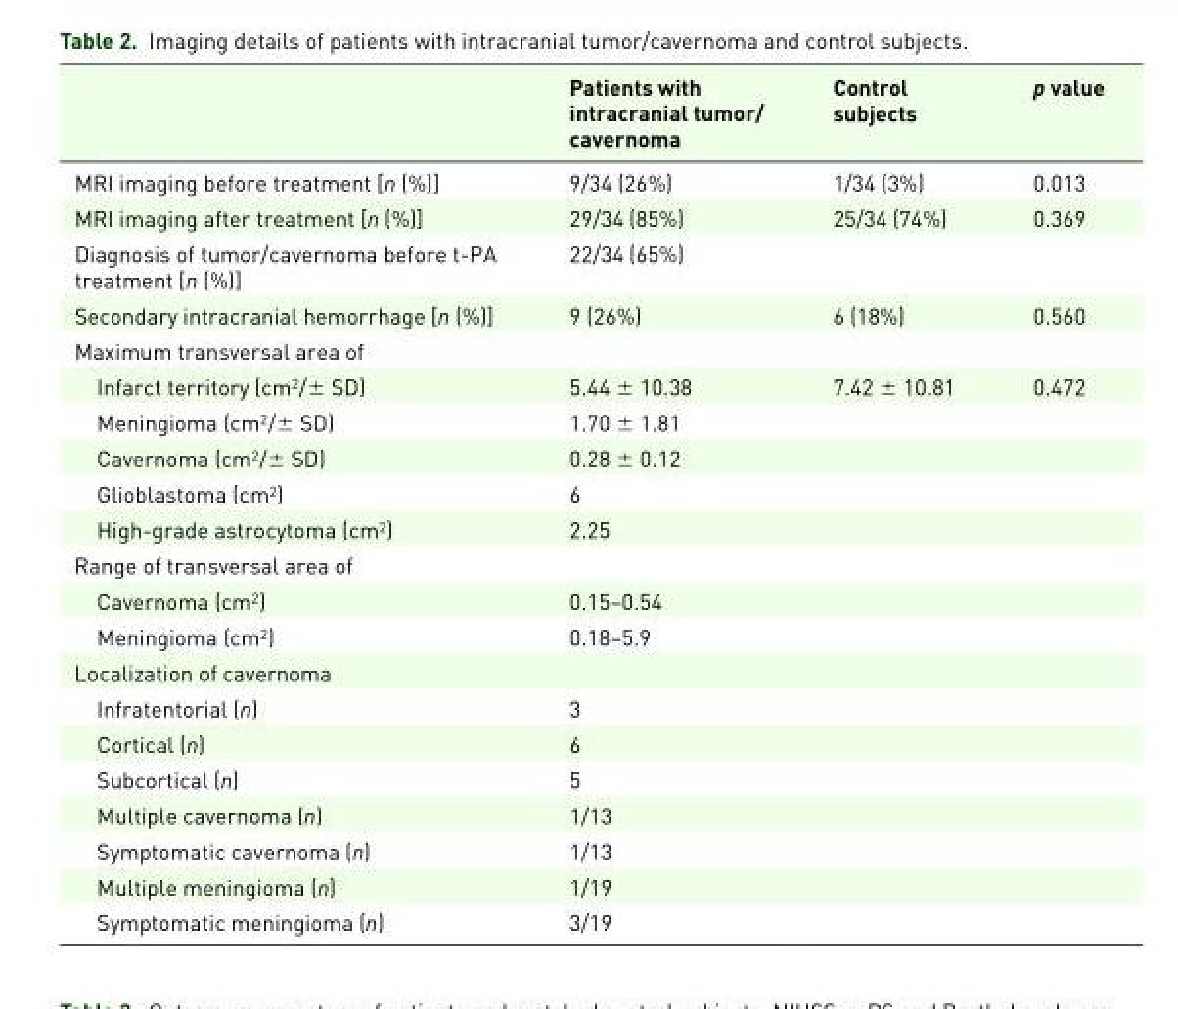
<table><thead><tr><td></td><td>Patients with intracranial tumor/ cavernoma</td><td>Control subjects</td><td>p value</td></tr></thead><tbody><tr><td>MRI imaging before treatment [n (%)]</td><td>9/34 (26%)</td><td>1/34 (3%)</td><td>0.013</td></tr><tr><td>MRI imaging after treatment [n (%)]</td><td>29/34 (85%)</td><td>25/34 (74%)</td><td>0.369</td></tr><tr><td>Diagnosis of tumor/cavernoma before t-PA treatment [n (%)]</td><td>22/34 (65%)</td><td></td><td></td></tr><tr><td>Secondary intracranial hemorrhage [n (%)]</td><td>9 (26%)</td><td>6 (18%)</td><td>0.560</td></tr><tr><td colspan="4">Maximum transversal area of</td></tr><tr><td>Infarct territory (cm<sup>2</sup>/± SD)</td><td>5.44 ± 10.38</td><td>7.42 ± 10.81</td><td>0.472</td></tr><tr><td>Meningioma (cm<sup>2</sup>/± SD)</td><td>1.70 ± 1.81</td><td></td><td></td></tr><tr><td>Cavernoma (cm<sup>2</sup>/± SD)</td><td>0.28 ± 0.12</td><td></td><td></td></tr><tr><td>Glioblastoma (cm<sup>2</sup>)</td><td>6</td><td></td><td></td></tr><tr><td>High-grade astrocytoma (cm<sup>2</sup>)</td><td>2.25</td><td></td><td></td></tr><tr><td colspan="4">Range of transversal area of</td></tr><tr><td>Cavernoma (cm<sup>2</sup>)</td><td>0.15–0.54</td><td></td><td></td></tr><tr><td>Meningioma (cm<sup>2</sup>)</td><td>0.18–5.9</td><td></td><td></td></tr><tr><td colspan="4">Localization of cavernoma</td></tr><tr><td>Infratentorial (n)</td><td>3</td><td></td><td></td></tr><tr><td>Cortical (n)</td><td>6</td><td></td><td></td></tr><tr><td>Subcortical (n)</td><td>5</td><td></td><td></td></tr><tr><td>Multiple cavernoma (n)</td><td>1/13</td><td></td><td></td></tr><tr><td>Symptomatic cavernoma (n)</td><td>1/13</td><td></td><td></td></tr><tr><td>Multiple meningioma (n)</td><td>1/19</td><td></td><td></td></tr><tr><td>Symptomatic meningioma (n)</td><td>3/19</td><td></td><td></td></tr></tbody></table>